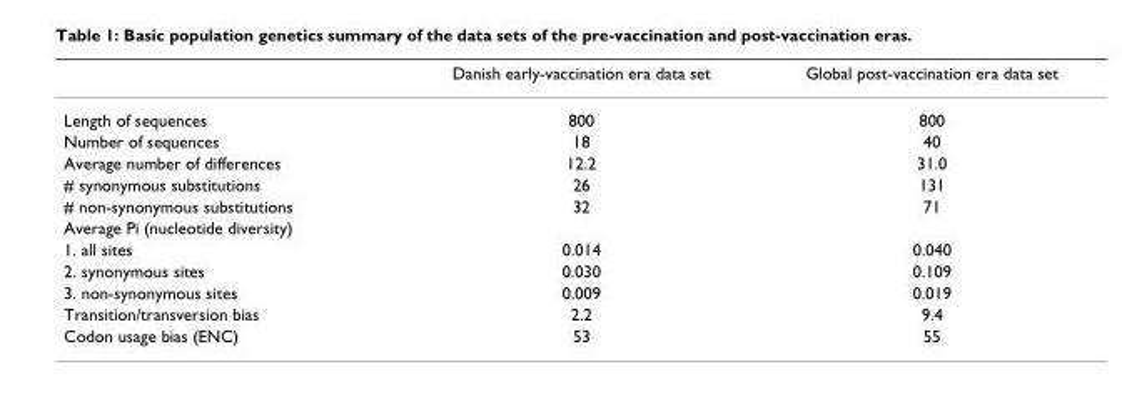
<table><thead><tr><td></td><td>Danish early-vaccination era data set</td><td>Global post-vaccination era data set</td></tr></thead><tbody><tr><td>Length of sequences</td><td>800</td><td>800</td></tr><tr><td>Number of sequences</td><td>18</td><td>40</td></tr><tr><td>Average number of differences</td><td>12.2</td><td>31.0</td></tr><tr><td># synonymous substitutions</td><td>26</td><td>131</td></tr><tr><td># non-synonymous substitutions</td><td>32</td><td>71</td></tr><tr><td colspan="3">Average Pi (nucleotide diversity)</td></tr><tr><td>1. all sites</td><td>0.014</td><td>0.040</td></tr><tr><td>2. synonymous sites</td><td>0.030</td><td>0.109</td></tr><tr><td>3. non-synonymous sites</td><td>0.009</td><td>0.019</td></tr><tr><td>Transition/transversion bias</td><td>2.2</td><td>9.4</td></tr><tr><td>Codon usage bias (ENC)</td><td>53</td><td>55</td></tr></tbody></table>